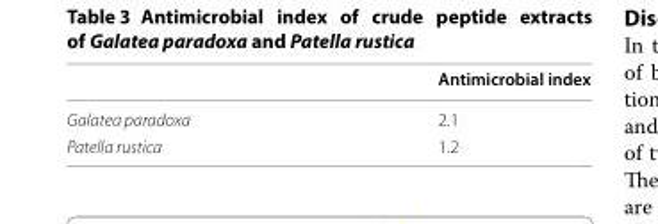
<table><thead><tr><td></td><td>Antimicrobial index</td></tr></thead><tbody><tr><td>Galatea paradoxa</td><td>2.1</td></tr><tr><td>Patella rustica</td><td>1.2</td></tr></tbody></table>